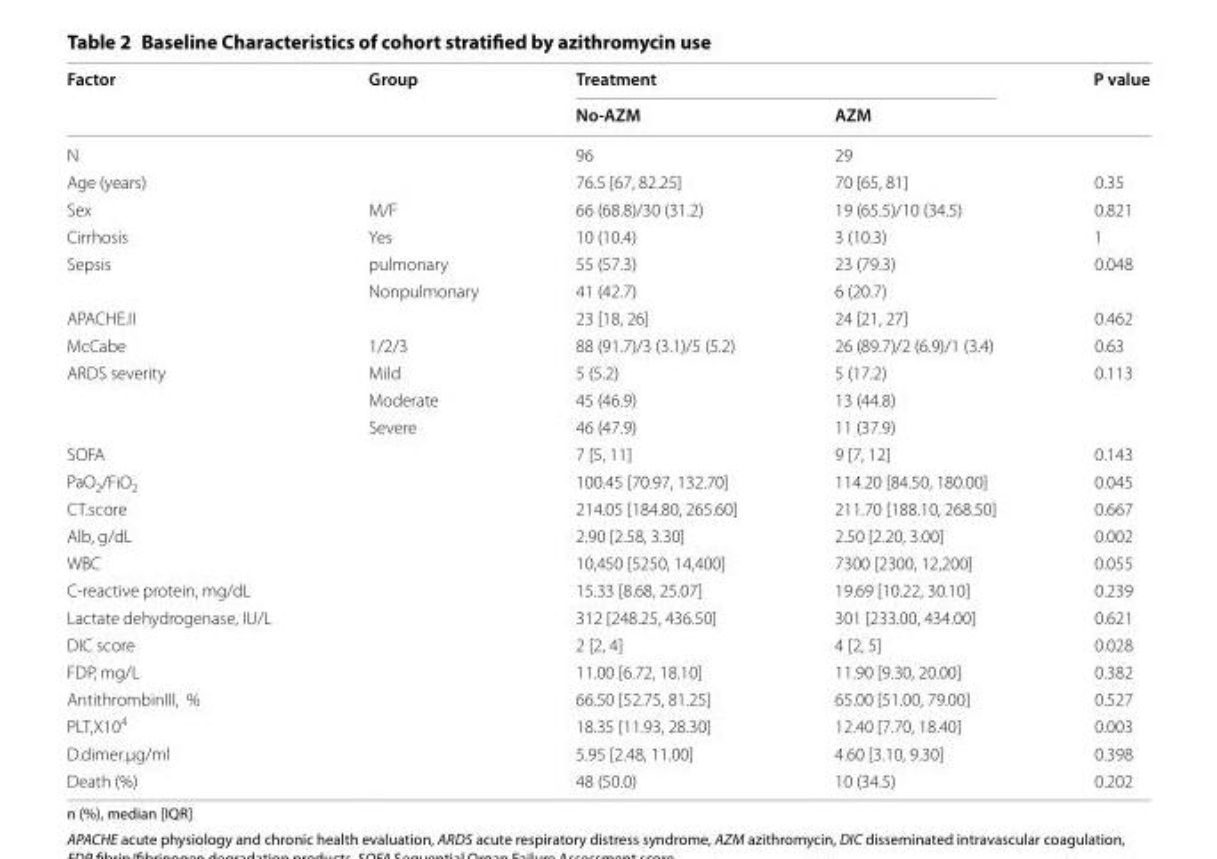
<table><thead><tr><td rowspan="2">Factor</td><td rowspan="2">Group</td><td colspan="2">Treatment</td><td rowspan="2">P value</td></tr><tr><td>No-AZM</td><td>AZM</td></tr></thead><tbody><tr><td>N</td><td></td><td>96</td><td>29</td><td></td></tr><tr><td>Age (years)</td><td></td><td>76.5 [67, 82.25]</td><td>70 [65, 81]</td><td>0.35</td></tr><tr><td>Sex</td><td>M/F</td><td>66 (68.8)/30 (31.2)</td><td>19 (65.5)/10 (34.5)</td><td>0.821</td></tr><tr><td>Cirrhosis</td><td>Yes</td><td>10 (10.4)</td><td>3 (10.3)</td><td>1</td></tr><tr><td rowspan="2">Sepsis</td><td>pulmonary</td><td>55 (57.3)</td><td>23 (79.3)</td><td rowspan="2">0.048</td></tr><tr><td>Nonpulmonary</td><td>41 (42.7)</td><td>6 (20.7)</td></tr><tr><td>APACHE.II</td><td></td><td>23 [18, 26]</td><td>24 [21, 27]</td><td>0.462</td></tr><tr><td>McCabe</td><td>1/2/3</td><td>88 (91.7)/3 (3.1)/5 (5.2)</td><td>26 (89.7)/2 (6.9)/1 (3.4)</td><td>0.63</td></tr><tr><td rowspan="3">ARDS severity</td><td>Mild</td><td>5 (5.2)</td><td>5 (17.2)</td><td rowspan="3">0.113</td></tr><tr><td>Moderate</td><td>45 (46.9)</td><td>13 (44.8)</td></tr><tr><td>Severe</td><td>46 (47.9)</td><td>11 (37.9)</td></tr><tr><td>SOFA</td><td></td><td>7 [5, 11]</td><td>9 [7, 12]</td><td>0.143</td></tr><tr><td>PaO<sub>2</sub>/FiO<sub>2</sub></td><td></td><td>100.45 [70.97, 132.70]</td><td>114.20 [84.50, 180.00]</td><td>0.045</td></tr><tr><td>CT.score</td><td></td><td>214.05 [184.80, 265.60]</td><td>211.70 [188.10, 268.50]</td><td>0.667</td></tr><tr><td>Alb, g/dL</td><td></td><td>2.90 [2.58, 3.30]</td><td>2.50 [2.20, 3.00]</td><td>0.002</td></tr><tr><td>WBC</td><td></td><td>10,450 [5250, 14,400]</td><td>7300 [2300, 12,200]</td><td>0.055</td></tr><tr><td>C-reactive protein, mg/dL</td><td></td><td>15.33 [8.68, 25.07]</td><td>19.69 [10.22, 30.10]</td><td>0.239</td></tr><tr><td>Lactate dehydrogenase, IU/L</td><td></td><td>312 [248.25, 436.50]</td><td>301 [233.00, 434.00]</td><td>0.621</td></tr><tr><td>DIC score</td><td></td><td>2 [2, 4]</td><td>4 [2, 5]</td><td>0.028</td></tr><tr><td>FDP, mg/L</td><td></td><td>11.00 [6.72, 18.10]</td><td>11.90 [9.30, 20.00]</td><td>0.382</td></tr><tr><td>AntithrombinIII, %</td><td></td><td>66.50 [52.75, 81.25]</td><td>65.00 [51.00, 79.00]</td><td>0.527</td></tr><tr><td>PLT,X10<sup>4</sup></td><td></td><td>18.35 [11.93, 28.30]</td><td>12.40 [7.70, 18.40]</td><td>0.003</td></tr><tr><td>D.dimer.μg/ml</td><td></td><td>5.95 [2.48, 11.00]</td><td>4.60 [3.10, 9.30]</td><td>0.398</td></tr><tr><td>Death (%)</td><td></td><td>48 (50.0)</td><td>10 (34.5)</td><td>0.202</td></tr></tbody></table>